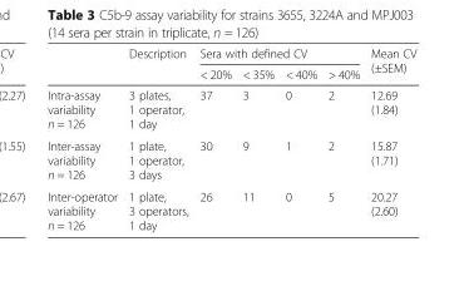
<table><thead><tr><td rowspan="2"></td><td rowspan="2">Description</td><td colspan="4">Sera with defined CV</td><td rowspan="2">Mean CV (±SEM)</td></tr><tr><td>&lt; 20%</td><td>&lt; 35%</td><td>&lt; 40%</td><td>&gt; 40%</td></tr></thead><tbody><tr><td>Intra-assay variability n = 126</td><td>3 plates, 1 operator, 1 day</td><td>37</td><td>3</td><td>0</td><td>2</td><td>12.69 (1.84)</td></tr><tr><td>Inter-assay variability n = 126</td><td>1 plate, 1 operator, 3 days</td><td>30</td><td>9</td><td>1</td><td>2</td><td>15.87 (1.71)</td></tr><tr><td>Inter-operator variability n = 126</td><td>1 plate, 3 operators, 1 day</td><td>26</td><td>11</td><td>0</td><td>5</td><td>20.27 (2.60)</td></tr></tbody></table>